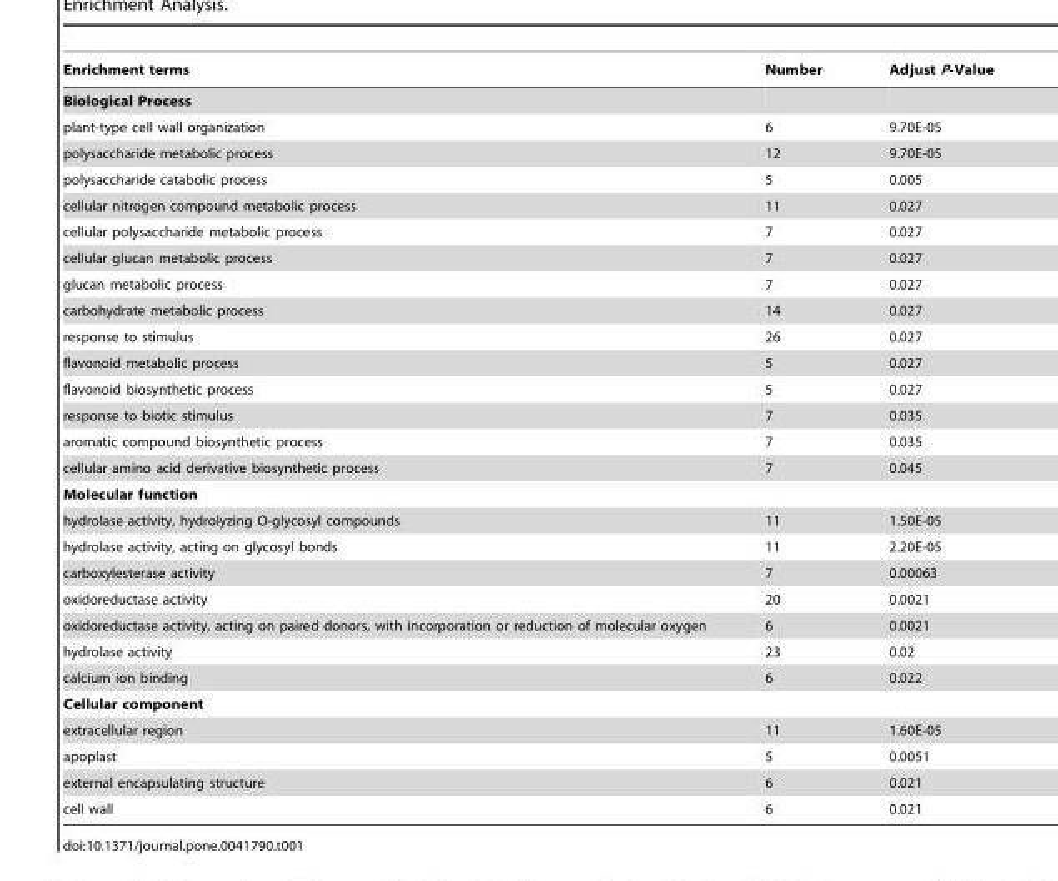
<table><thead><tr><td>Enrichment terms</td><td>Number</td><td>Adjust P-Value</td></tr></thead><tbody><tr><td colspan="3">Biological Process</td></tr><tr><td>plant-type cell wall organization</td><td>6</td><td>9.70E-05</td></tr><tr><td>polysaccharide metabolic process</td><td>12</td><td>9.70E-05</td></tr><tr><td>polysaccharide catabolic process</td><td>5</td><td>0.005</td></tr><tr><td>cellular nitrogen compound metabolic process</td><td>11</td><td>0.027</td></tr><tr><td>cellular polysaccharide metabolic process</td><td>7</td><td>0.027</td></tr><tr><td>cellular glucan metabolic process</td><td>7</td><td>0.027</td></tr><tr><td>glucan metabolic process</td><td>7</td><td>0.027</td></tr><tr><td>carbohydrate metabolic process</td><td>14</td><td>0.027</td></tr><tr><td>response to stimulus</td><td>26</td><td>0.027</td></tr><tr><td>flavonoid metabolic process</td><td>5</td><td>0.027</td></tr><tr><td>flavonoid biosynthetic process</td><td>5</td><td>0.027</td></tr><tr><td>response to biotic stimulus</td><td>7</td><td>0.035</td></tr><tr><td>aromatic compound biosynthetic process</td><td>7</td><td>0.035</td></tr><tr><td>cellular amino acid derivative biosynthetic process</td><td>7</td><td>0.045</td></tr><tr><td colspan="3">Molecular function</td></tr><tr><td>hydrolase activity, hydrolyzing O-glycosyl compounds</td><td>11</td><td>1.50E-05</td></tr><tr><td>hydrolase activity, acting on glycosyl bonds</td><td>11</td><td>2.20E-05</td></tr><tr><td>carboxylesterase activity</td><td>7</td><td>0.00063</td></tr><tr><td>oxidoreductase activity</td><td>20</td><td>0.0021</td></tr><tr><td>oxidoreductase activity, acting on paired donors, with incorporation or reduction of molecular oxygen</td><td>6</td><td>0.0021</td></tr><tr><td>hydrolase activity</td><td>23</td><td>0.02</td></tr><tr><td>calcium ion binding</td><td>6</td><td>0.022</td></tr><tr><td colspan="3">Cellular component</td></tr><tr><td>extracellular region</td><td>11</td><td>1.60E-05</td></tr><tr><td>apoplast</td><td>5</td><td>0.0051</td></tr><tr><td>external encapsulating structure</td><td>6</td><td>0.021</td></tr><tr><td>cell wall</td><td>6</td><td>0.021</td></tr></tbody></table>